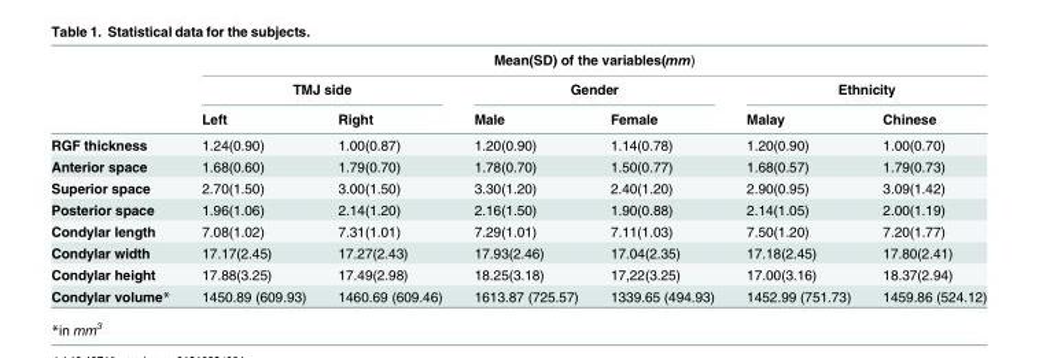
<table><thead><tr><td rowspan="3"></td><td colspan="6">Mean(SD) of the variables(mm)</td></tr><tr><td colspan="2">TMJ side</td><td colspan="2">Gender</td><td colspan="2">Ethnicity</td></tr><tr><td>Left</td><td>Right</td><td>Male</td><td>Female</td><td>Malay</td><td>Chinese</td></tr></thead><tbody><tr><td>RGF thickness</td><td>1.24(0.90)</td><td>1.00(0.87)</td><td>1.20(0.90)</td><td>1.14(0.78)</td><td>1.20(0.90)</td><td>1.00(0.70)</td></tr><tr><td>Anterior space</td><td>1.68(0.60)</td><td>1.79(0.70)</td><td>1.78(0.70)</td><td>1.50(0.77)</td><td>1.68(0.57)</td><td>1.79(0.73)</td></tr><tr><td>Superior space</td><td>2.70(1.50)</td><td>3.00(1.50)</td><td>3.30(1.20)</td><td>2.40(1.20)</td><td>2.90(0.95)</td><td>3.09(1.42)</td></tr><tr><td>Posterior space</td><td>1.96(1.06)</td><td>2.14(1.20)</td><td>2.16(1.50)</td><td>1.90(0.88)</td><td>2.14(1.05)</td><td>2.00(1.19)</td></tr><tr><td>Condylar length</td><td>7.08(1.02)</td><td>7.31(1.01)</td><td>7.29(1.01)</td><td>7.11(1.03)</td><td>7.50(1.20)</td><td>7.20(1.77)</td></tr><tr><td>Condylar width</td><td>17.17(2.45)</td><td>17.27(2.43)</td><td>17.93(2.46)</td><td>17.04(2.35)</td><td>17.18(2.45)</td><td>17.80(2.41)</td></tr><tr><td>Condylar height</td><td>17.88(3.25)</td><td>17.49(2.98)</td><td>18.25(3.18)</td><td>17,22(3.25)</td><td>17.00(3.16)</td><td>18.37(2.94)</td></tr><tr><td>Condylar volume*</td><td>1450.89 (609.93)</td><td>1460.69 (609.46)</td><td>1613.87 (725.57)</td><td>1339.65 (494.93)</td><td>1452.99 (751.73)</td><td>1459.86 (524.12)</td></tr></tbody></table>